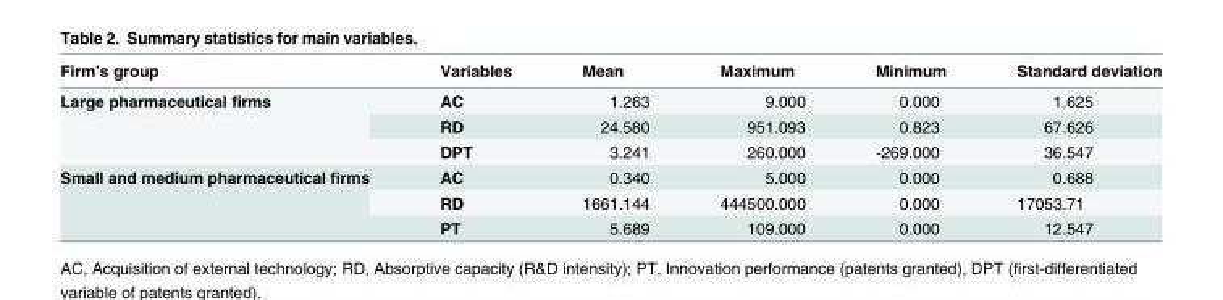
<table><thead><tr><td>Firm’s group</td><td>Variables</td><td>Mean</td><td>Maximum</td><td>Minimum</td><td>Standard deviation</td></tr></thead><tbody><tr><td rowspan="3">Large pharmaceutical firms</td><td>AC</td><td>1.263</td><td>9.000</td><td>0.000</td><td>1.625</td></tr><tr><td>RD</td><td>24.580</td><td>951.093</td><td>0.823</td><td>67.626</td></tr><tr><td>DPT</td><td>3.241</td><td>260.000</td><td>-269.000</td><td>36.547</td></tr><tr><td rowspan="3">Small and medium pharmaceutical firms</td><td>AC</td><td>0.340</td><td>5.000</td><td>0.000</td><td>0.688</td></tr><tr><td>RD</td><td>1661.144</td><td>444500.000</td><td>0.000</td><td>17053.71</td></tr><tr><td>PT</td><td>5.689</td><td>109.000</td><td>0.000</td><td>12.547</td></tr></tbody></table>